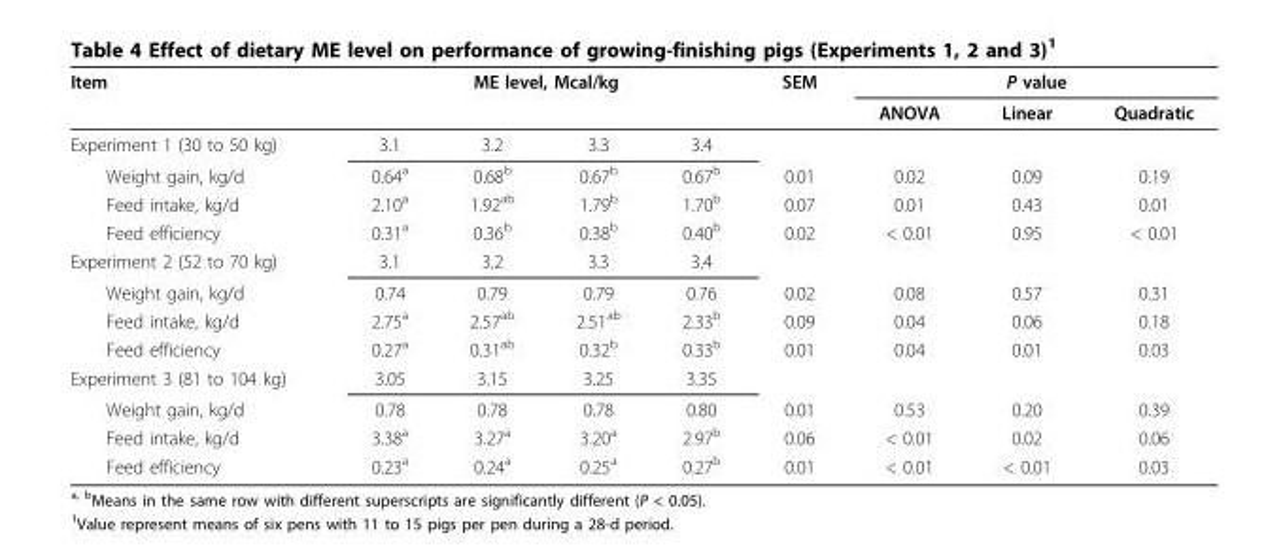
<table><thead><tr><td rowspan="2">Item</td><td colspan="4">ME level, Mcal/kg</td><td rowspan="2">SEM</td><td colspan="3">P value</td></tr><tr><td></td><td></td><td></td><td></td><td>ANOVA</td><td>Linear</td><td>Quadratic</td></tr></thead><tbody><tr><td>Experiment 1 (30 to 50 kg)</td><td>3.1</td><td>3.2</td><td>3.3</td><td>3.4</td><td></td><td></td><td></td><td></td></tr><tr><td>Weight gain, kg/d</td><td>0.64<sup>a</sup></td><td>0.68<sup>b</sup></td><td>0.67<sup>b</sup></td><td>0.67<sup>b</sup></td><td>0.01</td><td>0.02</td><td>0.09</td><td>0.19</td></tr><tr><td>Feed intake, kg/d</td><td>2.10<sup>a</sup></td><td>1.92<sup>ab</sup></td><td>1.79<sup>b</sup></td><td>1.70<sup>b</sup></td><td>0.07</td><td>0.01</td><td>0.43</td><td>0.01</td></tr><tr><td>Feed efficiency</td><td>0.31<sup>a</sup></td><td>0.36<sup>b</sup></td><td>0.38<sup>b</sup></td><td>0.40<sup>b</sup></td><td>0.02</td><td>&lt; 0.01</td><td>0.95</td><td>&lt; 0.01</td></tr><tr><td>Experiment 2 (52 to 70 kg)</td><td>3.1</td><td>3.2</td><td>3.3</td><td>3.4</td><td></td><td></td><td></td><td></td></tr><tr><td>Weight gain, kg/d</td><td>0.74</td><td>0.79</td><td>0.79</td><td>0.76</td><td>0.02</td><td>0.08</td><td>0.57</td><td>0.31</td></tr><tr><td>Feed intake, kg/d</td><td>2.75<sup>a</sup></td><td>2.57<sup>ab</sup></td><td>2.51<sup>ab</sup></td><td>2.33<sup>b</sup></td><td>0.09</td><td>0.04</td><td>0.06</td><td>0.18</td></tr><tr><td>Feed efficiency</td><td>0.27<sup>a</sup></td><td>0.31<sup>ab</sup></td><td>0.32<sup>b</sup></td><td>0.33<sup>b</sup></td><td>0.01</td><td>0.04</td><td>0.01</td><td>0.03</td></tr><tr><td>Experiment 3 (81 to 104 kg)</td><td>3.05</td><td>3.15</td><td>3.25</td><td>3.35</td><td></td><td></td><td></td><td></td></tr><tr><td>Weight gain, kg/d</td><td>0.78</td><td>0.78</td><td>0.78</td><td>0.80</td><td>0.01</td><td>0.53</td><td>0.20</td><td>0.39</td></tr><tr><td>Feed intake, kg/d</td><td>3.38<sup>a</sup></td><td>3.27<sup>a</sup></td><td>3.20<sup>a</sup></td><td>2.97<sup>b</sup></td><td>0.06</td><td>&lt; 0.01</td><td>0.02</td><td>0.06</td></tr><tr><td>Feed efficiency</td><td>0.23<sup>a</sup></td><td>0.24<sup>a</sup></td><td>0.25<sup>a</sup></td><td>0.27<sup>b</sup></td><td>0.01</td><td>&lt; 0.01</td><td>&lt; 0.01</td><td>0.03</td></tr></tbody></table>